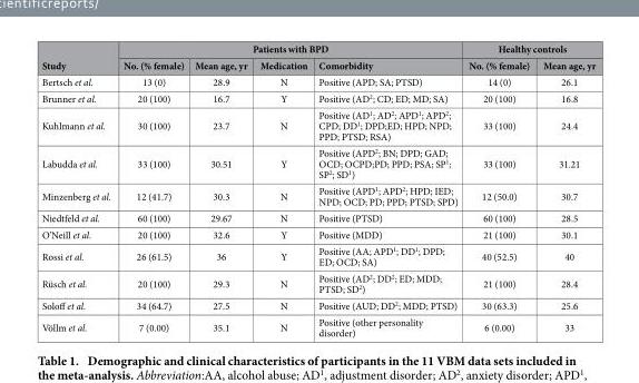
<table><thead><tr><td rowspan="2">Study</td><td colspan="4">Patients with BPD</td><td colspan="2">Healthy controls</td></tr><tr><td>No. (% female)</td><td>Mean age, yr</td><td>Medication</td><td>Comorbidity</td><td>No. (% female)</td><td>Mean age, yr</td></tr></thead><tbody><tr><td>Bertsch et al.</td><td>13 (0)</td><td>28.9</td><td>N</td><td>Positive (APD; SA; PTSD)</td><td>14 (0)</td><td>26.1</td></tr><tr><td>Brunner et al.</td><td>20 (100)</td><td>16.7</td><td>Y</td><td>Positive (AD<sup>2</sup>; CD; ED; MD; SA)</td><td>20 (100)</td><td>16.8</td></tr><tr><td>Kuhlmann et al.</td><td>30 (100)</td><td>23.7</td><td>N</td><td>Positive (AD<sup>1</sup>; AD<sup>2</sup>; APD<sup>1</sup>; APD<sup>2</sup>; CPD; DD<sup>1</sup>; DPD;ED; HPD; NPD; PPD; PTSD; RSA)</td><td>33 (100)</td><td>24.4</td></tr><tr><td>Labudda et al.</td><td>33 (100)</td><td>30.51</td><td>Y</td><td>Positive (APD<sup>2</sup>; BN; DPD; GAD; OCD; OCPD;PD; PPD; PSA; SP<sup>1</sup>; SP<sup>2</sup>; SD<sup>1</sup>)</td><td>33 (100)</td><td>31.21</td></tr><tr><td>Minzenberg et al.</td><td>12 (41.7)</td><td>30.3</td><td>N</td><td>Positive (APD<sup>1</sup>; APD<sup>2</sup>; HPD; IED; NPD; OCD; PD; PPD; PTSD; SPD)</td><td>12 (50.0)</td><td>30.7</td></tr><tr><td>Niedtfeld et al.</td><td>60 (100)</td><td>29.67</td><td>N</td><td>Positive (PTSD)</td><td>60 (100)</td><td>28.5</td></tr><tr><td>O’Neill et al.</td><td>20 (100)</td><td>32.6</td><td>Y</td><td>Positive (MDD)</td><td>21 (100)</td><td>30.1</td></tr><tr><td>Rossi et al.</td><td>26 (61.5)</td><td>36</td><td>Y</td><td>Positive (AA; APD<sup>1</sup>; DD<sup>1</sup>; DPD; ED; OCD; SA)</td><td>40 (52.5)</td><td>40</td></tr><tr><td>Rüsch et al.</td><td>20 (100)</td><td>29.3</td><td>N</td><td>Positive (AD<sup>2</sup>; DD<sup>2</sup>; ED; MDD; PTSD; SD<sup>2</sup>)</td><td>21 (100)</td><td>28.4</td></tr><tr><td>Soloff et al.</td><td>34 (64.7)</td><td>27.5</td><td>N</td><td>Positive (AUD; DD<sup>2</sup>; MDD; PTSD)</td><td>30 (63.3)</td><td>25.6</td></tr><tr><td>Völlm et al.</td><td>7 (0.00)</td><td>35.1</td><td>N</td><td>Positive (other personality disorder)</td><td>6 (0.00)</td><td>33</td></tr></tbody></table>